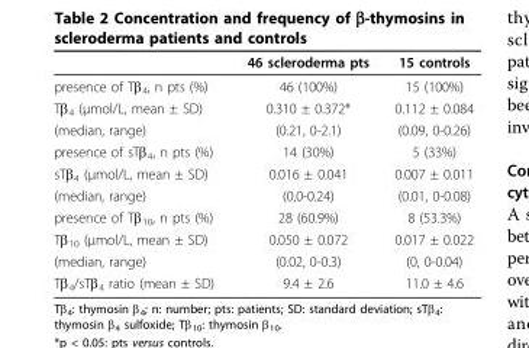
<table><thead><tr><td></td><td>46 scleroderma pts</td><td>15 controls</td></tr></thead><tbody><tr><td>presence of Tβ<sub>4</sub>, n pts (%)</td><td>46 (100%)</td><td>15 (100%)</td></tr><tr><td>Tβ<sub>4</sub> (μmol/L, mean ± SD)</td><td>0.310 ± 0.372*</td><td>0.112 ± 0.084</td></tr><tr><td>(median, range)</td><td>(0.21, 0-2.1)</td><td>(0.09, 0-0.26)</td></tr><tr><td>presence of sTβ<sub>4</sub>, n pts (%)</td><td>14 (30%)</td><td>5 (33%)</td></tr><tr><td>sTβ<sub>4</sub> (μmol/L, mean ± SD)</td><td>0.016 ± 0.041</td><td>0.007 ± 0.011</td></tr><tr><td>(median, range)</td><td>(0,0-0.24)</td><td>(0.01, 0-0.08)</td></tr><tr><td>presence of Tβ<sub>10</sub>, n pts (%)</td><td>28 (60.9%)</td><td>8 (53.3%)</td></tr><tr><td>Tβ<sub>10</sub> (μmol/L, mean ± SD)</td><td>0.050 ± 0.072</td><td>0.017 ± 0.022</td></tr><tr><td>(median, range)</td><td>(0.02, 0-0.3)</td><td>(0, 0-0.04)</td></tr><tr><td>Tβ<sub>4</sub>/sTβ<sub>4</sub> ratio (mean ± SD)</td><td>9.4 ± 2.6</td><td>11.0 ± 4.6</td></tr></tbody></table>